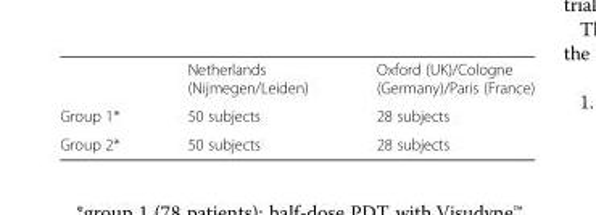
<table><thead><tr><td></td><td>Netherlands (Nijmegen/Leiden)</td><td>Oxford (UK)/Cologne (Germany)/Paris (France)</td></tr></thead><tbody><tr><td>Group 1*</td><td>50 subjects</td><td>28 subjects</td></tr><tr><td>Group 2*</td><td>50 subjects</td><td>28 subjects</td></tr></tbody></table>